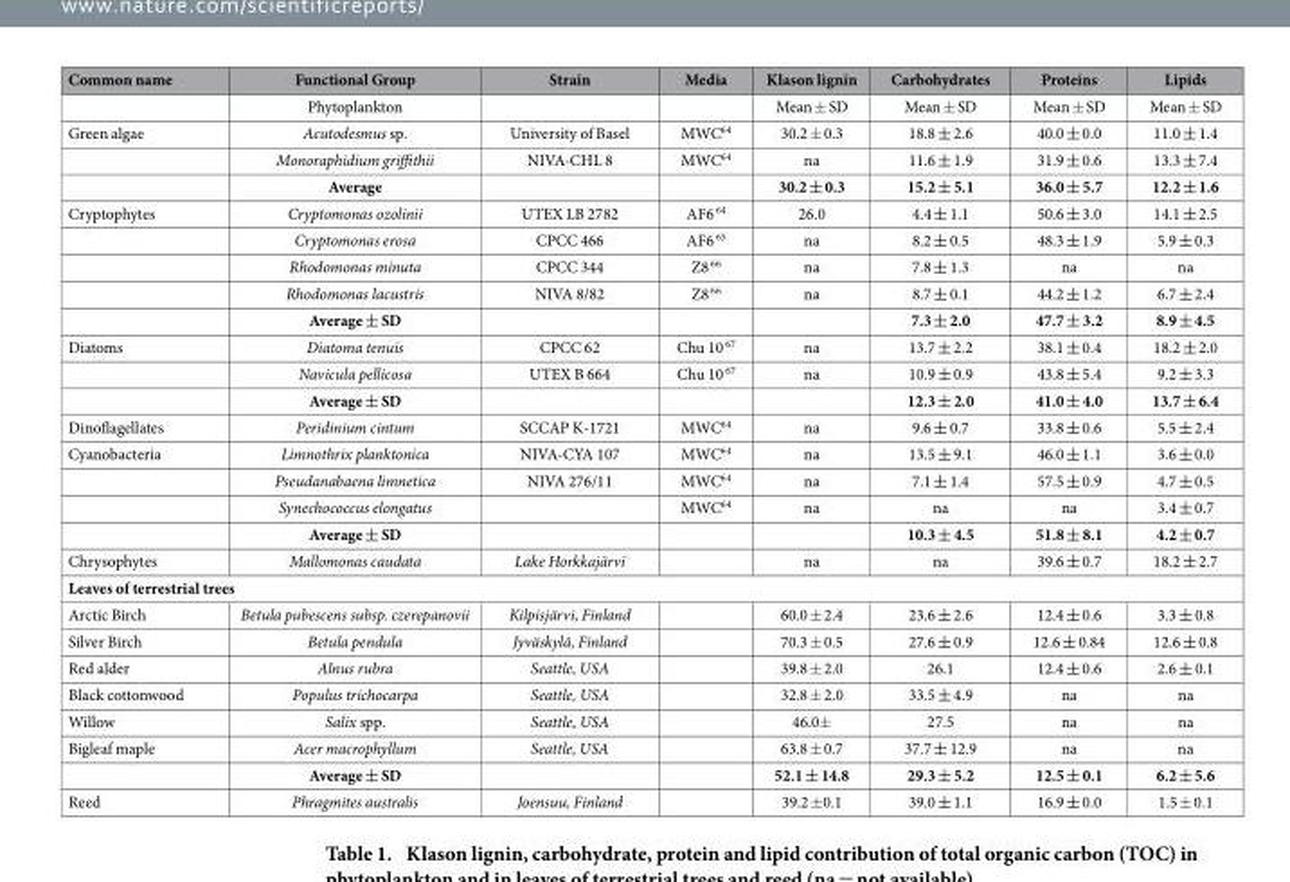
<table><thead><tr><td>Common name</td><td>Functional Group</td><td>Strain</td><td>Media</td><td>Klason lignin</td><td>Carbohydrates</td><td>Proteins</td><td>Lipids</td></tr></thead><tbody><tr><td></td><td>Phytoplankton</td><td></td><td></td><td>Mean ± SD</td><td>Mean ± SD</td><td>Mean ± SD</td><td>Mean ± SD</td></tr><tr><td rowspan="3">Green algae</td><td>Acutodesmus sp.</td><td>University of Basel</td><td>MWC<sup>64</sup></td><td>30.2 ± 0.3</td><td>18.8 ± 2.6</td><td>40.0 ± 0.0</td><td>11.0 ± 1.4</td></tr><tr><td>Monoraphidium griffithii</td><td>NIVA-CHL 8</td><td>MWC<sup>64</sup></td><td>na</td><td>11.6 ± 1.9</td><td>31.9 ± 0.6</td><td>13.3 ± 7.4</td></tr><tr><td>Average</td><td></td><td></td><td>30.2 ± 0.3</td><td>15.2 ± 5.1</td><td>36.0 ± 5.7</td><td>12.2 ± 1.6</td></tr><tr><td rowspan="5">Cryptophytes</td><td>Cryptomonas ozolinii</td><td>UTEX LB 2782</td><td>AF6 64</td><td>26.0</td><td>4.4 ± 1.1</td><td>50.6 ± 3.0</td><td>14.1 ± 2.5</td></tr><tr><td>Cryptomonas erosa</td><td>CPCC 466</td><td>AF6 65</td><td>na</td><td>8.2 ± 0.5</td><td>48.3 ± 1.9</td><td>5.9 ± 0.3</td></tr><tr><td>Rhodomonas minuta</td><td>CPCC 344</td><td>Z8 66</td><td>na</td><td>7.8 ± 1.3</td><td>na</td><td>na</td></tr><tr><td>Rhodomonas lacustris</td><td>NIVA 8/82</td><td>Z8 66</td><td>na</td><td>8.7 ± 0.1</td><td>44.2 ± 1.2</td><td>6.7 ± 2.4</td></tr><tr><td>Average ± SD</td><td></td><td></td><td></td><td>7.3 ± 2.0</td><td>47.7 ± 3.2</td><td>8.9 ± 4.5</td></tr><tr><td rowspan="3">Diatoms</td><td>Diatoma tenuis</td><td>CPCC 62</td><td>Chu 10 67</td><td>na</td><td>13.7 ± 2.2</td><td>38.1 ± 0.4</td><td>18.2 ± 2.0</td></tr><tr><td>Navicula pellicosa</td><td>UTEX B 664</td><td>Chu 10 67</td><td>na</td><td>10.9 ± 0.9</td><td>43.8 ± 5.4</td><td>9.2 ± 3.3</td></tr><tr><td>Average ± SD</td><td></td><td></td><td></td><td>12.3 ± 2.0</td><td>41.0 ± 4.0</td><td>13.7 ± 6.4</td></tr><tr><td>Dinoflagellates</td><td>Peridinium cintum</td><td>SCCAP K-1721</td><td>MWC<sup>64</sup></td><td>na</td><td>9.6 ± 0.7</td><td>33.8 ± 0.6</td><td>5.5 ± 2.4</td></tr><tr><td rowspan="4">Cyanobacteria</td><td>Limnothrix planktonica</td><td>NIVA-CYA 107</td><td>MWC<sup>64</sup></td><td>na</td><td>13.5 ± 9.1</td><td>46.0 ± 1.1</td><td>3.6 ± 0.0</td></tr><tr><td>Pseudanabaena limnetica</td><td>NIVA 276/11</td><td>MWC<sup>64</sup></td><td>na</td><td>7.1 ± 1.4</td><td>57.5 ± 0.9</td><td>4.7 ± 0.5</td></tr><tr><td>Synechococcus elongatus</td><td></td><td>MWC<sup>64</sup></td><td>na</td><td>na</td><td>na</td><td>3.4 ± 0.7</td></tr><tr><td>Average ± SD</td><td></td><td></td><td></td><td>10.3 ± 4.5</td><td>51.8 ± 8.1</td><td>4.2 ± 0.7</td></tr><tr><td>Chrysophytes</td><td>Mallomonas caudata</td><td>Lake Horkkajärvi</td><td></td><td>na</td><td>na</td><td>39.6 ± 0.7</td><td>18.2 ± 2.7</td></tr><tr><td colspan="8">Leaves of terrestrial trees</td></tr><tr><td>Arctic Birch</td><td>Betula pubescens subsp. czerepanovii</td><td>Kilpisjärvi, Finland</td><td></td><td>60.0 ± 2.4</td><td>23.6 ± 2.6</td><td>12.4 ± 0.6</td><td>3.3 ± 0.8</td></tr><tr><td>Silver Birch</td><td>Betula pendula</td><td>Jyväskylä, Finland</td><td></td><td>70.3 ± 0.5</td><td>27.6 ± 0.9</td><td>12.6 ± 0.84</td><td>12.6 ± 0.8</td></tr><tr><td>Red alder</td><td>Alnus rubra</td><td>Seattle, USA</td><td></td><td>39.8 ± 2.0</td><td>26.1</td><td>12.4 ± 0.6</td><td>2.6 ± 0.1</td></tr><tr><td>Black cottonwood</td><td>Populus trichocarpa</td><td>Seattle, USA</td><td></td><td>32.8 ± 2.0</td><td>33.5 ± 4.9</td><td>na</td><td>na</td></tr><tr><td>Willow</td><td>Salix spp.</td><td>Seattle, USA</td><td></td><td>46.0±</td><td>27.5</td><td>na</td><td>na</td></tr><tr><td rowspan="2">Bigleaf maple</td><td>Acer macrophyllum</td><td>Seattle, USA</td><td></td><td>63.8 ± 0.7</td><td>37.7 ± 12.9</td><td>na</td><td>na</td></tr><tr><td>Average ± SD</td><td></td><td></td><td>52.1 ± 14.8</td><td>29.3 ± 5.2</td><td>12.5 ± 0.1</td><td>6.2 ± 5.6</td></tr><tr><td>Reed</td><td>Phragmites australis</td><td>Joensuu, Finland</td><td></td><td>39.2 ± 0.1</td><td>39.0 ± 1.1</td><td>16.9 ± 0.0</td><td>1.5 ± 0.1</td></tr></tbody></table>